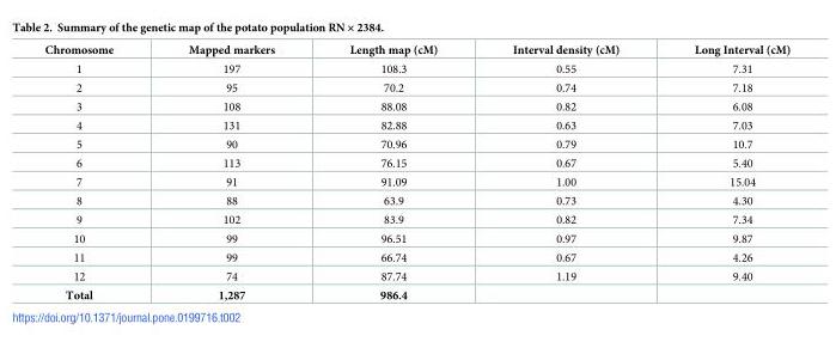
<table><thead><tr><td>Chromosome</td><td>Mapped markers</td><td>Length map (cM)</td><td>Interval density (cM)</td><td>Long Interval (cM)</td></tr></thead><tbody><tr><td>1</td><td>197</td><td>108.3</td><td>0.55</td><td>7.31</td></tr><tr><td>2</td><td>95</td><td>70.2</td><td>0.74</td><td>7.18</td></tr><tr><td>3</td><td>108</td><td>88.08</td><td>0.82</td><td>6.08</td></tr><tr><td>4</td><td>131</td><td>82.88</td><td>0.63</td><td>7.03</td></tr><tr><td>5</td><td>90</td><td>70.96</td><td>0.79</td><td>10.7</td></tr><tr><td>6</td><td>113</td><td>76.15</td><td>0.67</td><td>5.40</td></tr><tr><td>7</td><td>91</td><td>91.09</td><td>1.00</td><td>15.04</td></tr><tr><td>8</td><td>88</td><td>63.9</td><td>0.73</td><td>4.30</td></tr><tr><td>9</td><td>102</td><td>83.9</td><td>0.82</td><td>7.34</td></tr><tr><td>10</td><td>99</td><td>96.51</td><td>0.97</td><td>9.87</td></tr><tr><td>11</td><td>99</td><td>66.74</td><td>0.67</td><td>4.26</td></tr><tr><td>12</td><td>74</td><td>87.74</td><td>1.19</td><td>9.40</td></tr><tr><td>Total</td><td>1,287</td><td>986.4</td><td></td><td></td></tr></tbody></table>